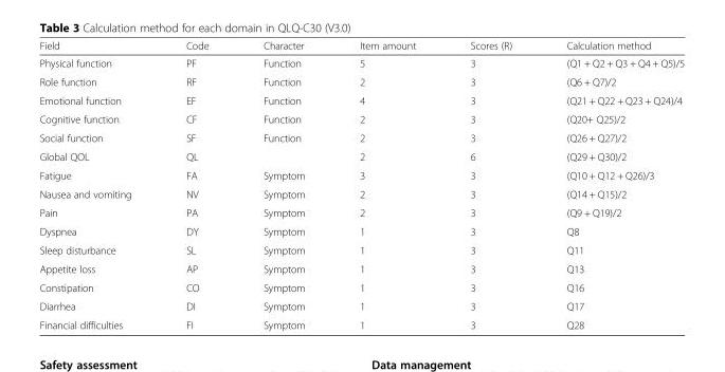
<table><thead><tr><td>Field</td><td>Code</td><td>Character</td><td>Item amount</td><td>Scores (R)</td><td>Calculation method</td></tr></thead><tbody><tr><td>Physical function</td><td>PF</td><td>Function</td><td>5</td><td>3</td><td>(Q1 + Q2 + Q3 + Q4 + Q5)/5</td></tr><tr><td>Role function</td><td>RF</td><td>Function</td><td>2</td><td>3</td><td>(Q6 + Q7)/2</td></tr><tr><td>Emotional function</td><td>EF</td><td>Function</td><td>4</td><td>3</td><td>(Q21 + Q22 + Q23 + Q24)/4</td></tr><tr><td>Cognitive function</td><td>CF</td><td>Function</td><td>2</td><td>3</td><td>(Q20+ Q25)/2</td></tr><tr><td>Social function</td><td>SF</td><td>Function</td><td>2</td><td>3</td><td>(Q26 + Q27)/2</td></tr><tr><td>Global QOL</td><td>QL</td><td></td><td>2</td><td>6</td><td>(Q29 + Q30)/2</td></tr><tr><td>Fatigue</td><td>FA</td><td>Symptom</td><td>3</td><td>3</td><td>(Q10 + Q12 + Q26)/3</td></tr><tr><td>Nausea and vomiting</td><td>NV</td><td>Symptom</td><td>2</td><td>3</td><td>(Q14 + Q15)/2</td></tr><tr><td>Pain</td><td>PA</td><td>Symptom</td><td>2</td><td>3</td><td>(Q9 + Q19)/2</td></tr><tr><td>Dyspnea</td><td>DY</td><td>Symptom</td><td>1</td><td>3</td><td>Q8</td></tr><tr><td>Sleep disturbance</td><td>SL</td><td>Symptom</td><td>1</td><td>3</td><td>Q11</td></tr><tr><td>Appetite loss</td><td>AP</td><td>Symptom</td><td>1</td><td>3</td><td>Q13</td></tr><tr><td>Constipation</td><td>CO</td><td>Symptom</td><td>1</td><td>3</td><td>Q16</td></tr><tr><td>Diarrhea</td><td>DI</td><td>Symptom</td><td>1</td><td>3</td><td>Q17</td></tr><tr><td>Financial difficulties</td><td>FI</td><td>Symptom</td><td>1</td><td>3</td><td>Q28</td></tr></tbody></table>